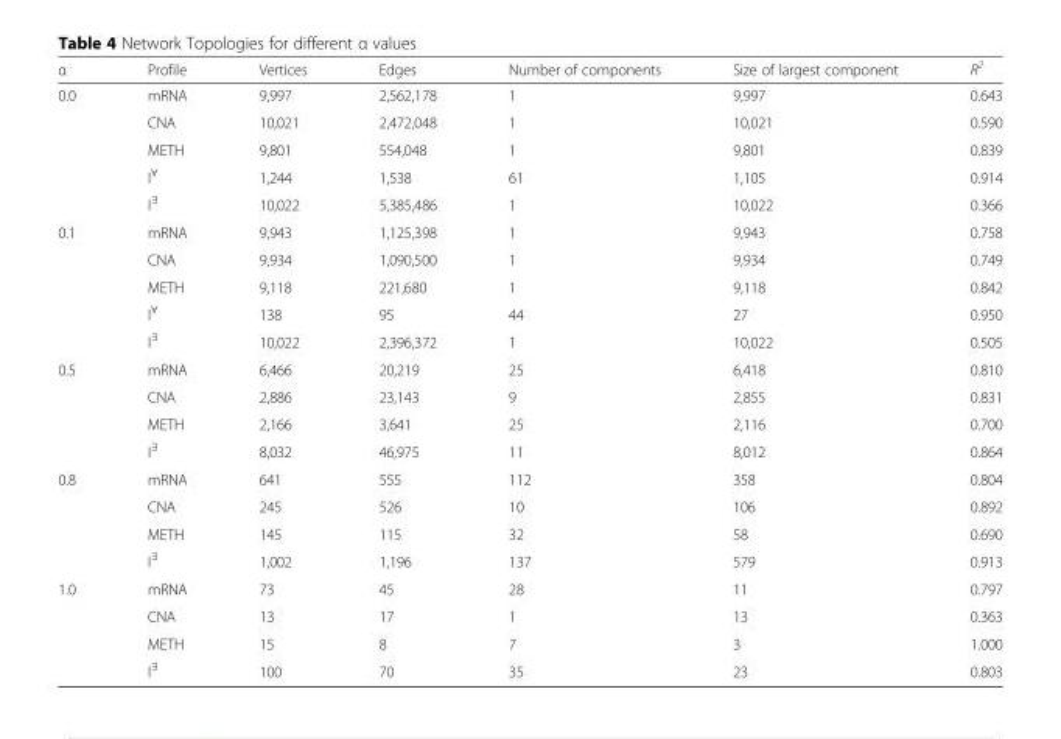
<table><thead><tr><td>α</td><td>Profile</td><td>Vertices</td><td>Edges</td><td>Number of components</td><td>Size of largest component</td><td>R<sup>2</sup></td></tr></thead><tbody><tr><td rowspan="5">0.0</td><td>mRNA</td><td>9,997</td><td>2,562,178</td><td>1</td><td>9,997</td><td>0.643</td></tr><tr><td>CNA</td><td>10,021</td><td>2,472,048</td><td>1</td><td>10,021</td><td>0.590</td></tr><tr><td>METH</td><td>9,801</td><td>554,048</td><td>1</td><td>9,801</td><td>0.839</td></tr><tr><td>I<sup>∀</sup></td><td>1,244</td><td>1,538</td><td>61</td><td>1,105</td><td>0.914</td></tr><tr><td>I<sup>∃</sup></td><td>10,022</td><td>5,385,486</td><td>1</td><td>10,022</td><td>0.366</td></tr><tr><td rowspan="5">0.1</td><td>mRNA</td><td>9,943</td><td>1,125,398</td><td>1</td><td>9,943</td><td>0.758</td></tr><tr><td>CNA</td><td>9,934</td><td>1,090,500</td><td>1</td><td>9,934</td><td>0.749</td></tr><tr><td>METH</td><td>9,118</td><td>221,680</td><td>1</td><td>9,118</td><td>0.842</td></tr><tr><td>I<sup>∀</sup></td><td>138</td><td>95</td><td>44</td><td>27</td><td>0.950</td></tr><tr><td>I<sup>∃</sup></td><td>10,022</td><td>2,396,372</td><td>1</td><td>10,022</td><td>0.505</td></tr><tr><td rowspan="4">0.5</td><td>mRNA</td><td>6,466</td><td>20,219</td><td>25</td><td>6,418</td><td>0.810</td></tr><tr><td>CNA</td><td>2,886</td><td>23,143</td><td>9</td><td>2,855</td><td>0.831</td></tr><tr><td>METH</td><td>2,166</td><td>3,641</td><td>25</td><td>2,116</td><td>0.700</td></tr><tr><td>I<sup>∃</sup></td><td>8,032</td><td>46,975</td><td>11</td><td>8,012</td><td>0.864</td></tr><tr><td rowspan="4">0.8</td><td>mRNA</td><td>641</td><td>555</td><td>112</td><td>358</td><td>0.804</td></tr><tr><td>CNA</td><td>245</td><td>526</td><td>10</td><td>106</td><td>0.892</td></tr><tr><td>METH</td><td>145</td><td>115</td><td>32</td><td>58</td><td>0.690</td></tr><tr><td>I<sup>∃</sup></td><td>1,002</td><td>1,196</td><td>137</td><td>579</td><td>0.913</td></tr><tr><td rowspan="4">1.0</td><td>mRNA</td><td>73</td><td>45</td><td>28</td><td>11</td><td>0.797</td></tr><tr><td>CNA</td><td>13</td><td>17</td><td>1</td><td>13</td><td>0.363</td></tr><tr><td>METH</td><td>15</td><td>8</td><td>7</td><td>3</td><td>1.000</td></tr><tr><td>I<sup>∃</sup></td><td>100</td><td>70</td><td>35</td><td>23</td><td>0.803</td></tr></tbody></table>